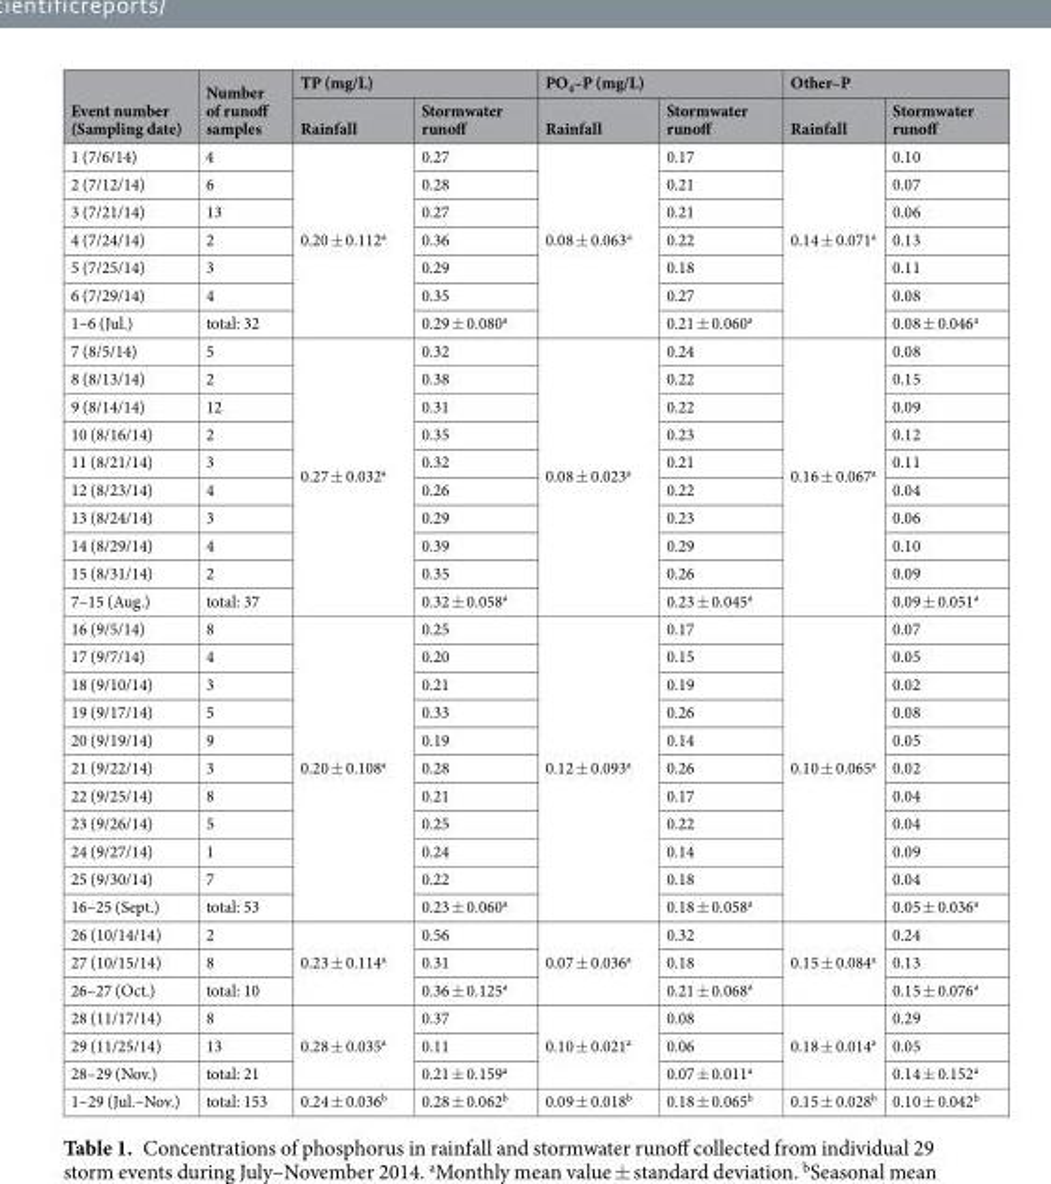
<table><thead><tr><td rowspan="2">Event number (Sampling date)</td><td rowspan="2">Number of runoff samples</td><td colspan="2">TP (mg/L)</td><td colspan="2">PO<sub>4</sub>–P (mg/L)</td><td colspan="2">Other–P</td></tr><tr><td>Rainfall</td><td>Stormwater runoff</td><td>Rainfall</td><td>Stormwater runoff</td><td>Rainfall</td><td>Stormwater runoff</td></tr></thead><tbody><tr><td>1 (7/6/14)</td><td>4</td><td rowspan="7">0.20 ± 0.112<sup>a</sup></td><td>0.27</td><td rowspan="7">0.08 ± 0.063<sup>a</sup></td><td>0.17</td><td rowspan="7">0.14 ± 0.071<sup>a</sup></td><td>0.10</td></tr><tr><td>2 (7/12/14)</td><td>6</td><td>0.28</td><td>0.21</td><td>0.07</td></tr><tr><td>3 (7/21/14)</td><td>13</td><td>0.27</td><td>0.21</td><td>0.06</td></tr><tr><td>4 (7/24/14)</td><td>2</td><td>0.36</td><td>0.22</td><td>0.13</td></tr><tr><td>5 (7/25/14)</td><td>3</td><td>0.29</td><td>0.18</td><td>0.11</td></tr><tr><td>6 (7/29/14)</td><td>4</td><td>0.35</td><td>0.27</td><td>0.08</td></tr><tr><td>1–6 (Jul.)</td><td>total: 32</td><td>0.29 ± 0.080<sup>a</sup></td><td>0.21 ± 0.060<sup>a</sup></td><td>0.08 ± 0.046<sup>a</sup></td></tr><tr><td>7 (8/5/14)</td><td>5</td><td rowspan="10">0.27 ± 0.032<sup>a</sup></td><td>0.32</td><td rowspan="10">0.08 ± 0.023<sup>a</sup></td><td>0.24</td><td rowspan="10">0.16 ± 0.067<sup>a</sup></td><td>0.08</td></tr><tr><td>8 (8/13/14)</td><td>2</td><td>0.38</td><td>0.22</td><td>0.15</td></tr><tr><td>9 (8/14/14)</td><td>12</td><td>0.31</td><td>0.22</td><td>0.09</td></tr><tr><td>10 (8/16/14)</td><td>2</td><td>0.35</td><td>0.23</td><td>0.12</td></tr><tr><td>11 (8/21/14)</td><td>3</td><td>0.32</td><td>0.21</td><td>0.11</td></tr><tr><td>12 (8/23/14)</td><td>4</td><td>0.26</td><td>0.22</td><td>0.04</td></tr><tr><td>13 (8/24/14)</td><td>3</td><td>0.29</td><td>0.23</td><td>0.06</td></tr><tr><td>14 (8/29/14)</td><td>4</td><td>0.39</td><td>0.29</td><td>0.10</td></tr><tr><td>15 (8/31/14)</td><td>2</td><td>0.35</td><td>0.26</td><td>0.09</td></tr><tr><td>7–15 (Aug.)</td><td>total: 37</td><td>0.32 ± 0.058<sup>a</sup></td><td>0.23 ± 0.045<sup>a</sup></td><td>0.09 ± 0.051<sup>a</sup></td></tr><tr><td>16 (9/5/14)</td><td>8</td><td rowspan="11">0.20 ± 0.108<sup>a</sup></td><td>0.25</td><td rowspan="11">0.12 ± 0.093<sup>a</sup></td><td>0.17</td><td rowspan="11">0.10 ± 0.065<sup>a</sup></td><td>0.07</td></tr><tr><td>17 (9/7/14)</td><td>4</td><td>0.20</td><td>0.15</td><td>0.05</td></tr><tr><td>18 (9/10/14)</td><td>3</td><td>0.21</td><td>0.19</td><td>0.02</td></tr><tr><td>19 (9/17/14)</td><td>5</td><td>0.33</td><td>0.26</td><td>0.08</td></tr><tr><td>20 (9/19/14)</td><td>9</td><td>0.19</td><td>0.14</td><td>0.05</td></tr><tr><td>21 (9/22/14)</td><td>3</td><td>0.28</td><td>0.26</td><td>0.02</td></tr><tr><td>22 (9/25/14)</td><td>8</td><td>0.21</td><td>0.17</td><td>0.04</td></tr><tr><td>23 (9/26/14)</td><td>5</td><td>0.25</td><td>0.22</td><td>0.04</td></tr><tr><td>24 (9/27/14)</td><td>1</td><td>0.24</td><td>0.14</td><td>0.09</td></tr><tr><td>25 (9/30/14)</td><td>7</td><td>0.22</td><td>0.18</td><td>0.04</td></tr><tr><td>16–25 (Sept.)</td><td>total: 53</td><td>0.23 ± 0.060<sup>a</sup></td><td>0.18 ± 0.058<sup>a</sup></td><td>0.05 ± 0.036<sup>a</sup></td></tr><tr><td>26 (10/14/14)</td><td>2</td><td rowspan="3">0.23 ± 0.114<sup>a</sup></td><td>0.56</td><td rowspan="3">0.07 ± 0.036<sup>a</sup></td><td>0.32</td><td rowspan="3">0.15 ± 0.084<sup>a</sup></td><td>0.24</td></tr><tr><td>27 (10/15/14)</td><td>8</td><td>0.31</td><td>0.18</td><td>0.13</td></tr><tr><td>26–27 (Oct.)</td><td>total: 10</td><td>0.36 ± 0.125<sup>a</sup></td><td>0.21 ± 0.068<sup>a</sup></td><td>0.15 ± 0.076<sup>a</sup></td></tr><tr><td>28 (11/17/14)</td><td>8</td><td rowspan="3">0.28 ± 0.035<sup>a</sup></td><td>0.37</td><td rowspan="3">0.10 ± 0.021<sup>a</sup></td><td>0.08</td><td rowspan="3">0.18 ± 0.014<sup>a</sup></td><td>0.29</td></tr><tr><td>29 (11/25/14)</td><td>13</td><td>0.11</td><td>0.06</td><td>0.05</td></tr><tr><td>28–29 (Nov.)</td><td>total: 21</td><td>0.21 ± 0.159<sup>a</sup></td><td>0.07 ± 0.011<sup>a</sup></td><td>0.14 ± 0.152<sup>a</sup></td></tr><tr><td>1–29 (Jul.–Nov.)</td><td>total: 153</td><td>0.24 ± 0.036<sup>b</sup></td><td>0.28 ± 0.062<sup>b</sup></td><td>0.09 ± 0.018<sup>b</sup></td><td>0.18 ± 0.065<sup>b</sup></td><td>0.15 ± 0.028<sup>b</sup></td><td>0.10 ± 0.042<sup>b</sup></td></tr></tbody></table>